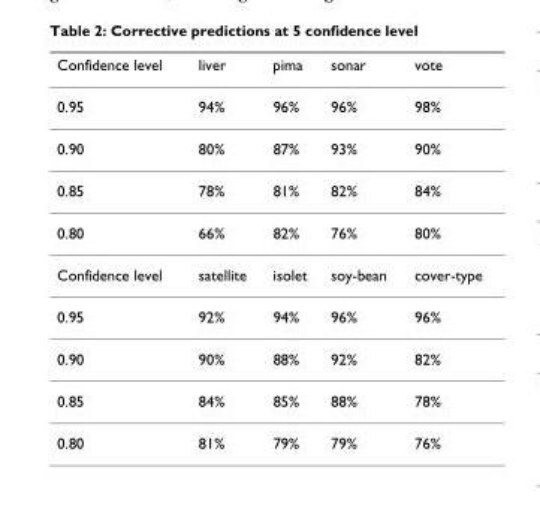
<table><thead><tr><td>Confidence level</td><td>liver</td><td>pima</td><td>sonar</td><td>vote</td></tr></thead><tbody><tr><td>0.95</td><td>94%</td><td>96%</td><td>96%</td><td>98%</td></tr><tr><td>0.90</td><td>80%</td><td>87%</td><td>93%</td><td>90%</td></tr><tr><td>0.85</td><td>78%</td><td>81%</td><td>82%</td><td>84%</td></tr><tr><td>0.80</td><td>66%</td><td>82%</td><td>76%</td><td>80%</td></tr><tr><td>Confidence level</td><td>satellite</td><td>isolet</td><td>soy-bean</td><td>cover-type</td></tr><tr><td>0.95</td><td>92%</td><td>94%</td><td>96%</td><td>96%</td></tr><tr><td>0.90</td><td>90%</td><td>88%</td><td>92%</td><td>82%</td></tr><tr><td>0.85</td><td>84%</td><td>85%</td><td>88%</td><td>78%</td></tr><tr><td>0.80</td><td>81%</td><td>79%</td><td>79%</td><td>76%</td></tr></tbody></table>